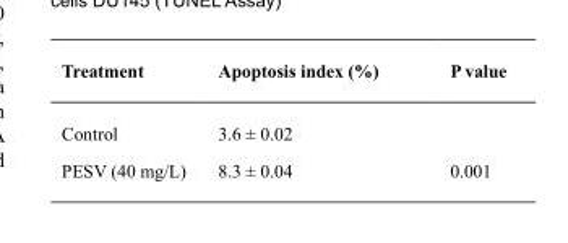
<table><thead><tr><td>Treatment</td><td>Apoptosis index (%)</td><td>P value</td></tr></thead><tbody><tr><td>Control</td><td>3.6 ± 0.02</td><td></td></tr><tr><td>PESV (40 mg/L)</td><td>8.3 ± 0.04</td><td>0.001</td></tr></tbody></table>